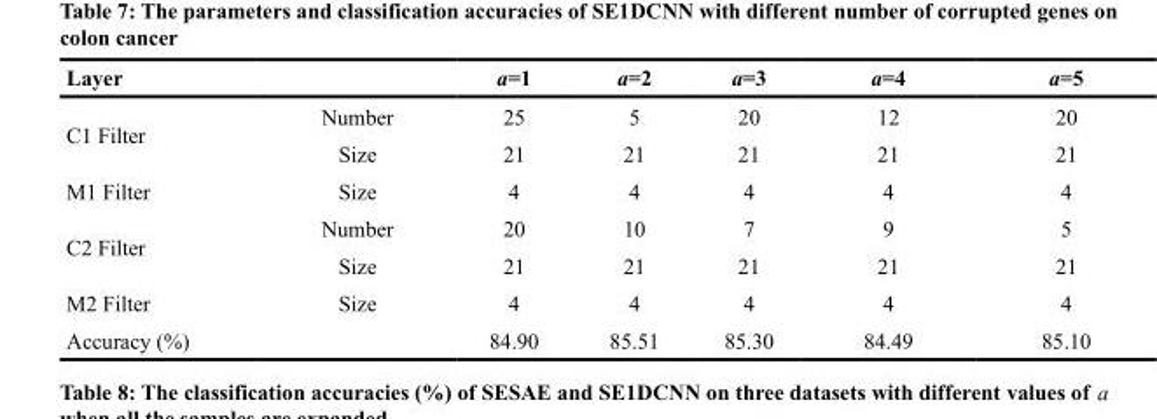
<table><thead><tr><td>Layer</td><td></td><td>a=1</td><td>a=2</td><td>a=3</td><td>a=4</td><td>a=5</td></tr></thead><tbody><tr><td rowspan="2">C1 Filter</td><td>Number</td><td>25</td><td>5</td><td>20</td><td>12</td><td>20</td></tr><tr><td>Size</td><td>21</td><td>21</td><td>21</td><td>21</td><td>21</td></tr><tr><td>M1 Filter</td><td>Size</td><td>4</td><td>4</td><td>4</td><td>4</td><td>4</td></tr><tr><td rowspan="2">C2 Filter</td><td>Number</td><td>20</td><td>10</td><td>7</td><td>9</td><td>5</td></tr><tr><td>Size</td><td>21</td><td>21</td><td>21</td><td>21</td><td>21</td></tr><tr><td>M2 Filter</td><td>Size</td><td>4</td><td>4</td><td>4</td><td>4</td><td>4</td></tr><tr><td colspan="2">Accuracy (%)</td><td>84.90</td><td>85.51</td><td>85.30</td><td>84.49</td><td>85.10</td></tr></tbody></table>